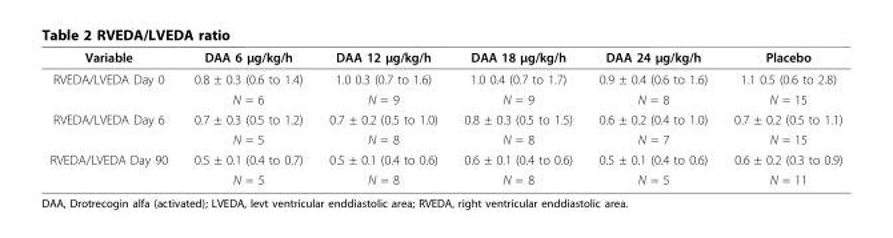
<table><thead><tr><td>Variable</td><td>DAA 6 μg/kg/h</td><td>DAA 12 μg/kg/h</td><td>DAA 18 μg/kg/h</td><td>DAA 24 μg/kg/h</td><td>Placebo</td></tr></thead><tbody><tr><td rowspan="2">RVEDA/LVEDA Day 0</td><td>0.8 ± 0.3 (0.6 to 1.4)</td><td>1.0 0.3 (0.7 to 1.6)</td><td>1.0 0.4 (0.7 to 1.7)</td><td>0.9 ± 0.4 (0.6 to 1.6)</td><td>1.1 0.5 (0.6 to 2.8)</td></tr><tr><td>N = 6</td><td>N = 9</td><td>N = 9</td><td>N = 8</td><td>N = 15</td></tr><tr><td rowspan="2">RVEDA/LVEDA Day 6</td><td>0.7 ± 0.3 (0.5 to 1.2)</td><td>0.7 ± 0.2 (0.5 to 1.0)</td><td>0.8 ± 0.3 (0.5 to 1.5)</td><td>0.6 ± 0.2 (0.4 to 1.0)</td><td>0.7 ± 0.2 (0.5 to 1.1)</td></tr><tr><td>N = 5</td><td>N = 8</td><td>N = 8</td><td>N = 7</td><td>N = 15</td></tr><tr><td rowspan="2">RVEDA/LVEDA Day 90</td><td>0.5 ± 0.1 (0.4 to 0.7)</td><td>0.5 ± 0.1 (0.4 to 0.6)</td><td>0.6 ± 0.1 (0.4 to 0.6)</td><td>0.5 ± 0.1 (0.4 to 0.6)</td><td>0.6 ± 0.2 (0.3 to 0.9)</td></tr><tr><td>N = 5</td><td>N = 8</td><td>N = 8</td><td>N = 5</td><td>N = 11</td></tr></tbody></table>